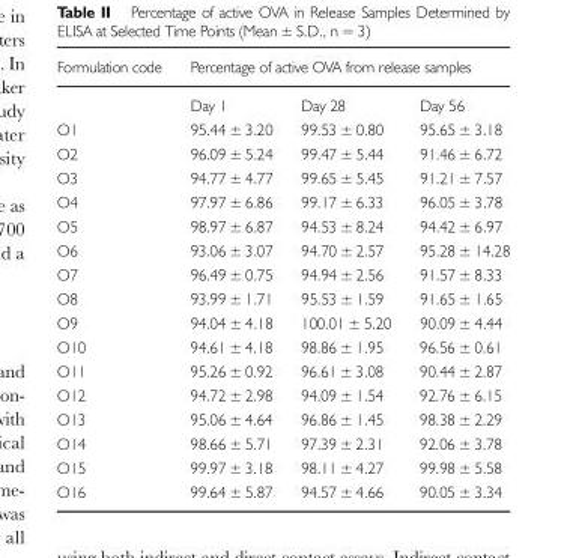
<table><thead><tr><td rowspan="2">Formulation code</td><td colspan="3">Percentage of active OVA from release samples</td></tr><tr><td>Day 1</td><td>Day 28</td><td>Day 56</td></tr></thead><tbody><tr><td>O1</td><td>95.44 ± 3.20</td><td>99.53 ± 0.80</td><td>95.65 ± 3.18</td></tr><tr><td>O2</td><td>96.09 ± 5.24</td><td>99.47 ± 5.44</td><td>91.46 ± 6.72</td></tr><tr><td>O3</td><td>94.77 ± 4.77</td><td>99.65 ± 5.45</td><td>91.21 ± 7.57</td></tr><tr><td>O4</td><td>97.97 ± 6.86</td><td>99.17 ± 6.33</td><td>96.05 ± 3.78</td></tr><tr><td>O5</td><td>98.97 ± 6.87</td><td>94.53 ± 8.24</td><td>94.42 ± 6.97</td></tr><tr><td>O6</td><td>93.06 ± 3.07</td><td>94.70 ± 2.57</td><td>95.28 ± 14.28</td></tr><tr><td>O7</td><td>96.49 ± 0.75</td><td>94.94 ± 2.56</td><td>91.57 ± 8.33</td></tr><tr><td>O8</td><td>93.99 ± 1.71</td><td>95.53 ± 1.59</td><td>91.65 ± 1.65</td></tr><tr><td>O9</td><td>94.04 ± 4.18</td><td>100.01 ± 5.20</td><td>90.09 ± 4.44</td></tr><tr><td>O10</td><td>94.61 ± 4.18</td><td>98.86 ± 1.95</td><td>96.56 ± 0.61</td></tr><tr><td>O11</td><td>95.26 ± 0.92</td><td>96.61 ± 3.08</td><td>90.44 ± 2.87</td></tr><tr><td>O12</td><td>94.72 ± 2.98</td><td>94.09 ± 1.54</td><td>92.76 ± 6.15</td></tr><tr><td>O13</td><td>95.06 ± 4.64</td><td>96.86 ± 1.45</td><td>98.38 ± 2.29</td></tr><tr><td>O14</td><td>98.66 ± 5.71</td><td>97.39 ± 2.31</td><td>92.06 ± 3.78</td></tr><tr><td>O15</td><td>99.97 ± 3.18</td><td>98.11 ± 4.27</td><td>99.98 ± 5.58</td></tr><tr><td>O16</td><td>99.64 ± 5.87</td><td>94.57 ± 4.66</td><td>90.05 ± 3.34</td></tr></tbody></table>